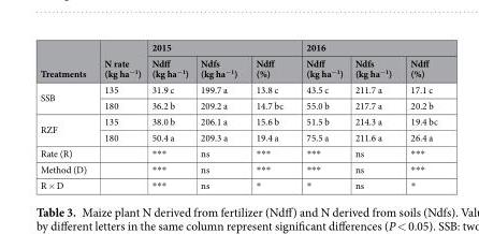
<table><thead><tr><td rowspan="2">Treatments</td><td rowspan="2">N rate (kg ha<sup>−1</sup>)</td><td colspan="3">2015</td><td colspan="3">2016</td></tr><tr><td>Ndff (kg ha<sup>−1</sup>)</td><td>Ndfs (kg ha<sup>−1</sup>)</td><td>Ndff (%)</td><td>Ndff (kg ha<sup>−1</sup>)</td><td>Ndfs (kg ha<sup>−1</sup>)</td><td>Ndff (%)</td></tr></thead><tbody><tr><td rowspan="2">SSB</td><td>135</td><td>31.9 c</td><td>199.7 a</td><td>13.8 c</td><td>43.5 c</td><td>211.7 a</td><td>17.1 c</td></tr><tr><td>180</td><td>36.2 b</td><td>209.2 a</td><td>14.7 bc</td><td>55.0 b</td><td>217.7 a</td><td>20.2 b</td></tr><tr><td rowspan="2">RZF</td><td>135</td><td>38.0 b</td><td>206.1 a</td><td>15.6 b</td><td>51.5 b</td><td>214.3 a</td><td>19.4 bc</td></tr><tr><td>180</td><td>50.4 a</td><td>209.3 a</td><td>19.4 a</td><td>75.5 a</td><td>211.6 a</td><td>26.4 a</td></tr><tr><td>Rate (R)</td><td></td><td>***</td><td>ns</td><td>***</td><td>***</td><td>ns</td><td>***</td></tr><tr><td>Method (D)</td><td></td><td>***</td><td>ns</td><td>***</td><td>***</td><td>ns</td><td>***</td></tr><tr><td>R × D</td><td></td><td>***</td><td>ns</td><td>*</td><td>*</td><td>ns</td><td>*</td></tr></tbody></table>